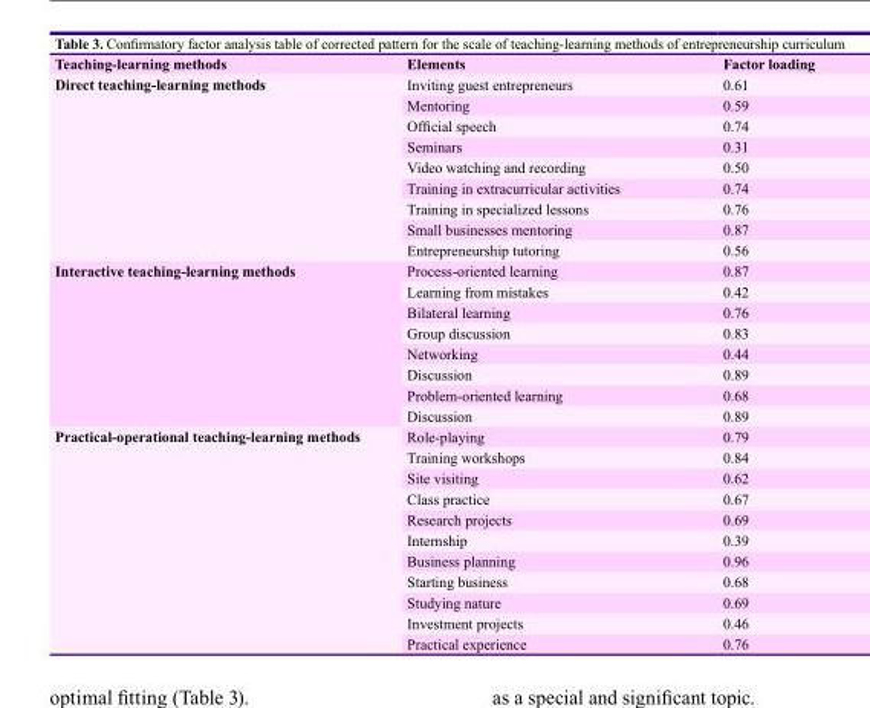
<table><thead><tr><td>Teaching-learning methods</td><td>Elements</td><td>Factor loading</td></tr></thead><tbody><tr><td>Direct teaching-learning methods</td><td>Inviting guest entrepreneurs Mentoring Official speech Seminars Video watching and recording Training in extracurricular activities Training in specialized lessons Small businesses mentoring Entrepreneurship tutoring</td><td>0.61 0.59 0.74 0.31 0.50 0.74 0.76 0.87 0.56</td></tr><tr><td>Interactive teaching-learning methods</td><td>Process-oriented learning Learning from mistakes Bilateral learning Group discussion Networking Discussion Problem-oriented learning Discussion</td><td>0.87 0.42 0.76 0.83 0.44 0.89 0.68 0.89</td></tr><tr><td>Practical-operational teaching-learning methods</td><td>Role-playing Training workshops Site visiting Class practice Research projects Internship Business planning Starting business Studying nature Investment projects Practical experience</td><td>0.79 0.84 0.62 0.67 0.69 0.39 0.96 0.68 0.69 0.46 0.76</td></tr></tbody></table>